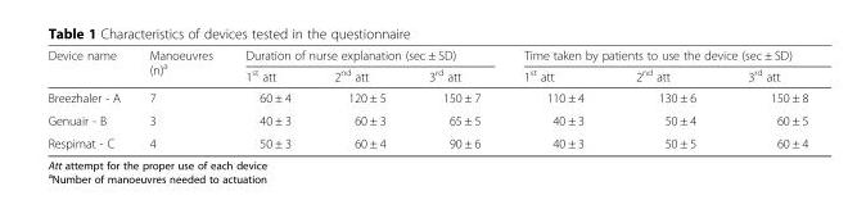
<table><thead><tr><td rowspan="2">Device name</td><td rowspan="2">Manoeuvres (n)<sup>a</sup></td><td colspan="3">Duration of nurse explanation (sec ± SD)</td><td colspan="3">Time taken by patients to use the device (sec ± SD)</td></tr><tr><td>1<sup>st</sup> att</td><td>2<sup>nd</sup> att</td><td>3<sup>rd</sup> att</td><td>1<sup>st</sup> att</td><td>2<sup>nd</sup> att</td><td>3<sup>rd</sup> att</td></tr></thead><tbody><tr><td>Breezhaler - A</td><td>7</td><td>60 ± 4</td><td>120 ± 5</td><td>150 ± 7</td><td>110 ± 4</td><td>130 ± 6</td><td>150 ± 8</td></tr><tr><td>Genuair - B</td><td>3</td><td>40 ± 3</td><td>60 ± 3</td><td>65 ± 5</td><td>40 ± 3</td><td>50 ± 4</td><td>60 ± 5</td></tr><tr><td>Respimat - C</td><td>4</td><td>50 ± 3</td><td>60 ± 4</td><td>90 ± 6</td><td>40 ± 3</td><td>50 ± 5</td><td>60 ± 4</td></tr></tbody></table>